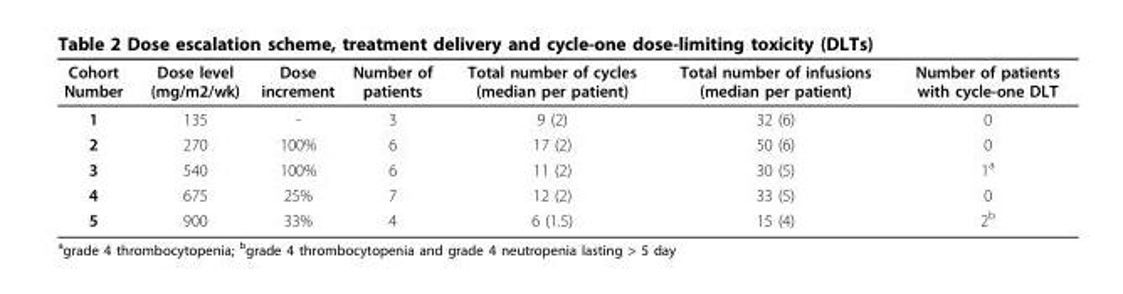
<table><thead><tr><td>Cohort Number</td><td>Dose level (mg/m2/wk)</td><td>Dose increment</td><td>Number of patients</td><td>Total number of cycles (median per patient)</td><td>Total number of infusions (median per patient)</td><td>Number of patients with cycle-one DLT</td></tr></thead><tbody><tr><td>1</td><td>135</td><td>-</td><td>3</td><td>9 (2)</td><td>32 (6)</td><td>0</td></tr><tr><td>2</td><td>270</td><td>100%</td><td>6</td><td>17 (2)</td><td>50 (6)</td><td>0</td></tr><tr><td>3</td><td>540</td><td>100%</td><td>6</td><td>11 (2)</td><td>30 (5)</td><td>1<sup>a</sup></td></tr><tr><td>4</td><td>675</td><td>25%</td><td>7</td><td>12 (2)</td><td>33 (5)</td><td>0</td></tr><tr><td>5</td><td>900</td><td>33%</td><td>4</td><td>6 (1.5)</td><td>15 (4)</td><td>2<sup>b</sup></td></tr></tbody></table>